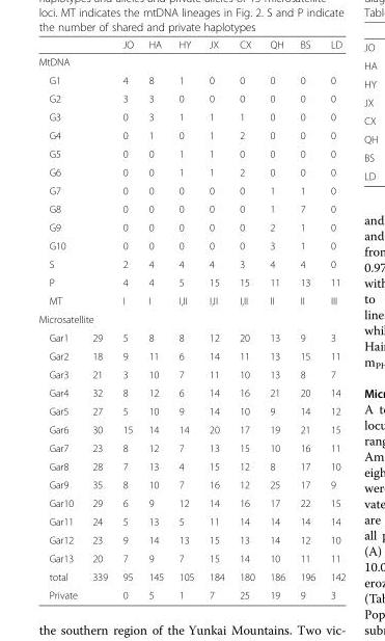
<table><thead><tr><td></td><td></td><td>JO</td><td>HA</td><td>HY</td><td>JX</td><td>CX</td><td>QH</td><td>BS</td><td>LD</td></tr></thead><tbody><tr><td colspan="10">MtDNA</td></tr><tr><td>G1</td><td></td><td>4</td><td>8</td><td>1</td><td>0</td><td>0</td><td>0</td><td>0</td><td>0</td></tr><tr><td>G2</td><td></td><td>3</td><td>3</td><td>0</td><td>0</td><td>0</td><td>0</td><td>0</td><td>0</td></tr><tr><td>G3</td><td></td><td>0</td><td>3</td><td>1</td><td>1</td><td>1</td><td>0</td><td>0</td><td>0</td></tr><tr><td>G4</td><td></td><td>0</td><td>1</td><td>0</td><td>1</td><td>2</td><td>0</td><td>0</td><td>0</td></tr><tr><td>G5</td><td></td><td>0</td><td>0</td><td>1</td><td>1</td><td>0</td><td>0</td><td>0</td><td>0</td></tr><tr><td>G6</td><td></td><td>0</td><td>0</td><td>1</td><td>1</td><td>2</td><td>0</td><td>0</td><td>0</td></tr><tr><td>G7</td><td></td><td>0</td><td>0</td><td>0</td><td>0</td><td>0</td><td>1</td><td>1</td><td>0</td></tr><tr><td>G8</td><td></td><td>0</td><td>0</td><td>0</td><td>0</td><td>0</td><td>1</td><td>7</td><td>0</td></tr><tr><td>G9</td><td></td><td>0</td><td>0</td><td>0</td><td>0</td><td>0</td><td>2</td><td>1</td><td>0</td></tr><tr><td>G10</td><td></td><td>0</td><td>0</td><td>0</td><td>0</td><td>0</td><td>3</td><td>1</td><td>0</td></tr><tr><td>S</td><td></td><td>2</td><td>4</td><td>4</td><td>4</td><td>3</td><td>4</td><td>4</td><td>0</td></tr><tr><td>P</td><td></td><td>4</td><td>4</td><td>5</td><td>15</td><td>15</td><td>11</td><td>13</td><td>11</td></tr><tr><td>MT</td><td></td><td>I</td><td>I</td><td>I,II</td><td>I,II</td><td>I,II</td><td>II</td><td>II</td><td>III</td></tr><tr><td colspan="10">Microsatellite</td></tr><tr><td>Gar1</td><td>29</td><td>5</td><td>8</td><td>8</td><td>12</td><td>20</td><td>13</td><td>9</td><td>3</td></tr><tr><td>Gar2</td><td>18</td><td>9</td><td>11</td><td>6</td><td>14</td><td>11</td><td>13</td><td>15</td><td>11</td></tr><tr><td>Gar3</td><td>21</td><td>3</td><td>10</td><td>7</td><td>11</td><td>10</td><td>13</td><td>8</td><td>7</td></tr><tr><td>Gar4</td><td>32</td><td>8</td><td>12</td><td>6</td><td>14</td><td>16</td><td>21</td><td>20</td><td>14</td></tr><tr><td>Gar5</td><td>27</td><td>5</td><td>10</td><td>9</td><td>14</td><td>10</td><td>9</td><td>14</td><td>12</td></tr><tr><td>Gar6</td><td>30</td><td>15</td><td>14</td><td>14</td><td>20</td><td>17</td><td>19</td><td>21</td><td>15</td></tr><tr><td>Gar7</td><td>23</td><td>8</td><td>12</td><td>7</td><td>13</td><td>15</td><td>10</td><td>16</td><td>11</td></tr><tr><td>Gar8</td><td>28</td><td>7</td><td>13</td><td>4</td><td>15</td><td>12</td><td>8</td><td>17</td><td>10</td></tr><tr><td>Gar9</td><td>35</td><td>8</td><td>10</td><td>7</td><td>16</td><td>12</td><td>25</td><td>17</td><td>9</td></tr><tr><td>Gar10</td><td>29</td><td>6</td><td>9</td><td>12</td><td>14</td><td>16</td><td>17</td><td>22</td><td>15</td></tr><tr><td>Gar11</td><td>24</td><td>5</td><td>13</td><td>5</td><td>11</td><td>14</td><td>14</td><td>14</td><td>14</td></tr><tr><td>Gar12</td><td>23</td><td>9</td><td>14</td><td>13</td><td>15</td><td>13</td><td>14</td><td>12</td><td>10</td></tr><tr><td>Gar13</td><td>20</td><td>7</td><td>9</td><td>7</td><td>15</td><td>14</td><td>10</td><td>11</td><td>11</td></tr><tr><td>total</td><td>339</td><td>95</td><td>145</td><td>105</td><td>184</td><td>180</td><td>186</td><td>196</td><td>142</td></tr><tr><td>Private</td><td></td><td>0</td><td>5</td><td>1</td><td>7</td><td>25</td><td>19</td><td>9</td><td>3</td></tr></tbody></table>